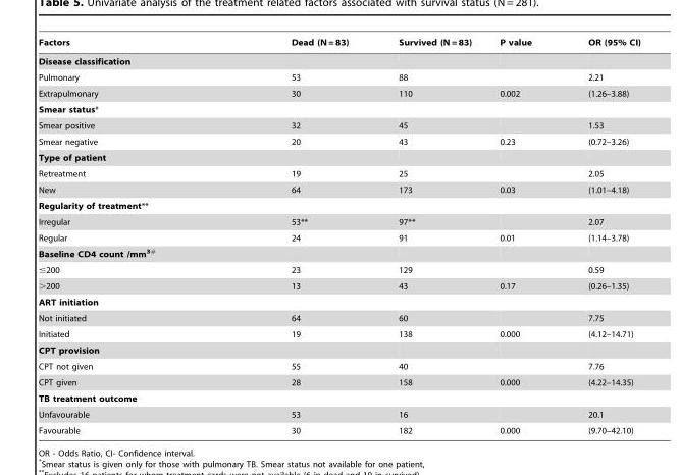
<table><thead><tr><td>Factors</td><td>Dead (N = 83)</td><td>Survived (N = 83)</td><td>P value</td><td>OR (95% CI)</td></tr></thead><tbody><tr><td colspan="5">Disease classification</td></tr><tr><td>Pulmonary</td><td>53</td><td>88</td><td></td><td>2.21</td></tr><tr><td>Extrapulmonary</td><td>30</td><td>110</td><td>0.002</td><td>(1.26–3.88)</td></tr><tr><td colspan="5">Smear status*</td></tr><tr><td>Smear positive</td><td>32</td><td>45</td><td></td><td>1.53</td></tr><tr><td>Smear negative</td><td>20</td><td>43</td><td>0.23</td><td>(0.72–3.26)</td></tr><tr><td colspan="5">Type of patient</td></tr><tr><td>Retreatment</td><td>19</td><td>25</td><td></td><td>2.05</td></tr><tr><td>New</td><td>64</td><td>173</td><td>0.03</td><td>(1.01–4.18)</td></tr><tr><td colspan="5">Regularity of treatment**</td></tr><tr><td>Irregular</td><td>53**</td><td>97**</td><td></td><td>2.07</td></tr><tr><td>Regular</td><td>24</td><td>91</td><td>0.01</td><td>(1.14–3.78)</td></tr><tr><td colspan="5">Baseline CD4 count /mm<sup>3</sup>#</td></tr><tr><td>≤200</td><td>23</td><td>129</td><td></td><td>0.59</td></tr><tr><td>&gt;200</td><td>13</td><td>43</td><td>0.17</td><td>(0.26–1.35)</td></tr><tr><td colspan="5">ART initiation</td></tr><tr><td>Not initiated</td><td>64</td><td>60</td><td></td><td>7.75</td></tr><tr><td>Initiated</td><td>19</td><td>138</td><td>0.000</td><td>(4.12–14.71)</td></tr><tr><td colspan="5">CPT provision</td></tr><tr><td>CPT not given</td><td>55</td><td>40</td><td></td><td>7.76</td></tr><tr><td>CPT given</td><td>28</td><td>158</td><td>0.000</td><td>(4.22–14.35)</td></tr><tr><td colspan="5">TB treatment outcome</td></tr><tr><td>Unfavourable</td><td>53</td><td>16</td><td></td><td>20.1</td></tr><tr><td>Favourable</td><td>30</td><td>182</td><td>0.000</td><td>(9.70–42.10)</td></tr></tbody></table>